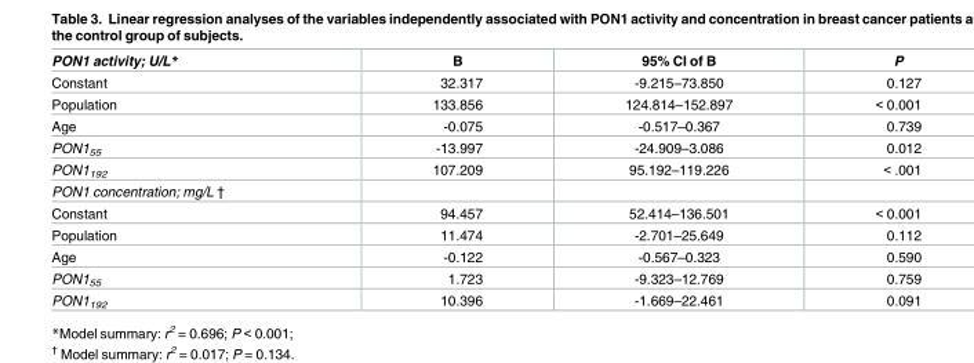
<table><thead><tr><td>PON1 activity; U/L*</td><td>B</td><td>95% CI of B</td><td>P</td></tr></thead><tbody><tr><td>Constant</td><td>32.317</td><td>-9.215–73.850</td><td>0.127</td></tr><tr><td>Population</td><td>133.856</td><td>124.814–152.897</td><td>&lt; 0.001</td></tr><tr><td>Age</td><td>-0.075</td><td>-0.517–0.367</td><td>0.739</td></tr><tr><td>PON1<sub>55</sub></td><td>-13.997</td><td>-24.909–3.086</td><td>0.012</td></tr><tr><td>PON1<sub>192</sub></td><td>107.209</td><td>95.192–119.226</td><td>&lt; .001</td></tr><tr><td colspan="4">PON1 concentration; mg/L †</td></tr><tr><td>Constant</td><td>94.457</td><td>52.414–136.501</td><td>&lt; 0.001</td></tr><tr><td>Population</td><td>11.474</td><td>-2.701–25.649</td><td>0.112</td></tr><tr><td>Age</td><td>-0.122</td><td>-0.567–0.323</td><td>0.590</td></tr><tr><td>PON1<sub>55</sub></td><td>1.723</td><td>-9.323–12.769</td><td>0.759</td></tr><tr><td>PON1<sub>192</sub></td><td>10.396</td><td>-1.669–22.461</td><td>0.091</td></tr></tbody></table>